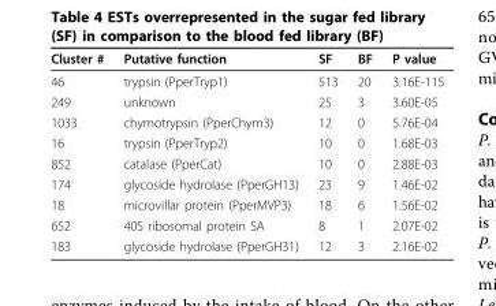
<table><thead><tr><td>Cluster #</td><td>Putative function</td><td>SF</td><td>BF</td><td>P value</td></tr></thead><tbody><tr><td>46</td><td>trypsin (PperTryp1)</td><td>513</td><td>20</td><td>3.16E-115</td></tr><tr><td>249</td><td>unknown</td><td>25</td><td>3</td><td>3.60E-05</td></tr><tr><td>1033</td><td>chymotrypsin (PperChym3)</td><td>12</td><td>0</td><td>5.76E-04</td></tr><tr><td>16</td><td>trypsin (PperTryp2)</td><td>10</td><td>0</td><td>1.68E-03</td></tr><tr><td>852</td><td>catalase (PperCat)</td><td>10</td><td>0</td><td>2.88E-03</td></tr><tr><td>174</td><td>glycoside hydrolase (PperGH13)</td><td>23</td><td>9</td><td>1.46E-02</td></tr><tr><td>18</td><td>microvillar protein (PperMVP3)</td><td>18</td><td>6</td><td>1.56E-02</td></tr><tr><td>652</td><td>40S ribosomal protein SA</td><td>8</td><td>1</td><td>2.07E-02</td></tr><tr><td>183</td><td>glycoside hydrolase (PperGH31)</td><td>12</td><td>3</td><td>2.16E-02</td></tr></tbody></table>